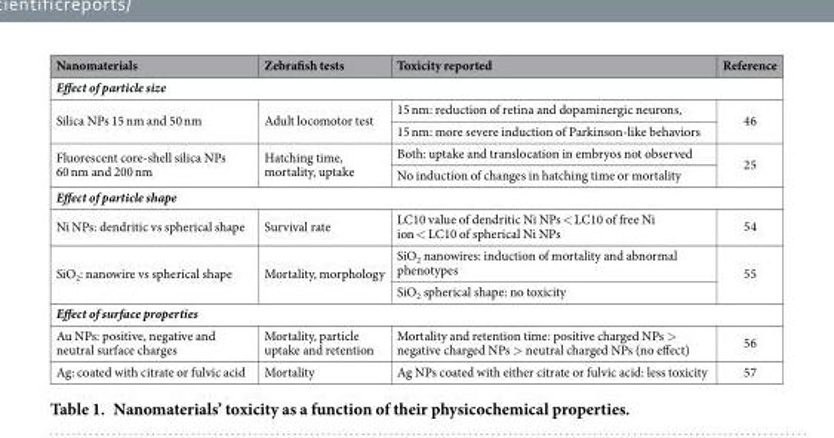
<table><thead><tr><td>Nanomaterials</td><td>Zebrafish tests</td><td>Toxicity reported</td><td>Reference</td></tr></thead><tbody><tr><td colspan="4">Effect of particle size</td></tr><tr><td rowspan="2">Silica NPs 15 nm and 50 nm</td><td rowspan="2">Adult locomotor test</td><td>15 nm: reduction of retina and dopaminergic neurons,</td><td rowspan="2">46</td></tr><tr><td>15 nm: more severe induction of Parkinson-like behaviors</td></tr><tr><td rowspan="2">Fluorescent core-shell silica NPs 60 nm and 200 nm</td><td rowspan="2">Hatching time, mortality, uptake</td><td>Both: uptake and translocation in embryos not observed</td><td rowspan="2">25</td></tr><tr><td>No induction of changes in hatching time or mortality</td></tr><tr><td colspan="4">Effect of particle shape</td></tr><tr><td>Ni NPs: dendritic vs spherical shape</td><td>Survival rate</td><td>LC10 value of dendritic Ni NPs &lt; LC10 of free Ni ion &lt; LC10 of spherical Ni NPs</td><td>54</td></tr><tr><td rowspan="2">SiO<sub>2</sub>: nanowire vs spherical shape</td><td rowspan="2">Mortality, morphology</td><td>SiO<sub>2</sub> nanowires: induction of mortality and abnormal phenotypes</td><td rowspan="2">55</td></tr><tr><td>SiO<sub>2</sub> spherical shape: no toxicity</td></tr><tr><td colspan="4">Effect of surface properties</td></tr><tr><td>Au NPs: positive, negative and neutral surface charges</td><td>Mortality, particle uptake and retention</td><td>Mortality and retention time: positive charged NPs &gt; negative charged NPs &gt; neutral charged NPs (no effect)</td><td>56</td></tr><tr><td>Ag: coated with citrate or fulvic acid</td><td>Mortality</td><td>Ag NPs coated with either citrate or fulvic acid: less toxicity</td><td>57</td></tr></tbody></table>